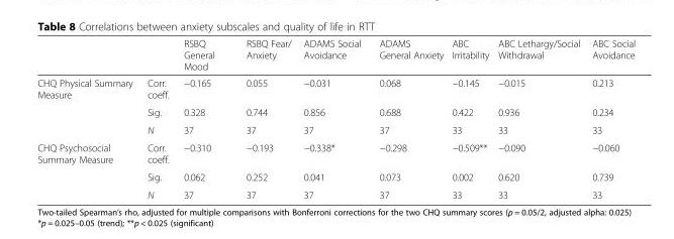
<table><thead><tr><td></td><td></td><td>RSBQ General Mood</td><td>RSBQ Fear/ Anxiety</td><td>ADAMS Social Avoidance</td><td>ADAMS General Anxiety</td><td>ABC Irritability</td><td>ABC Lethargy/Social Withdrawal</td><td>ABC Social Avoidance</td></tr></thead><tbody><tr><td rowspan="3">CHQ Physical Summary Measure</td><td>Corr. coeff.</td><td>−0.165</td><td>0.055</td><td>−0.031</td><td>0.068</td><td>−0.145</td><td>−0.015</td><td>0.213</td></tr><tr><td>Sig.</td><td>0.328</td><td>0.744</td><td>0.856</td><td>0.688</td><td>0.422</td><td>0.936</td><td>0.234</td></tr><tr><td>N</td><td>37</td><td>37</td><td>37</td><td>37</td><td>33</td><td>33</td><td>33</td></tr><tr><td rowspan="3">CHQ Psychosocial Summary Measure</td><td>Corr. coeff.</td><td>−0.310</td><td>−0.193</td><td>−0.338*</td><td>−0.298</td><td>−0.509**</td><td>−0.090</td><td>−0.060</td></tr><tr><td>Sig.</td><td>0.062</td><td>0.252</td><td>0.041</td><td>0.073</td><td>0.002</td><td>0.620</td><td>0.739</td></tr><tr><td>N</td><td>37</td><td>37</td><td>37</td><td>37</td><td>33</td><td>33</td><td>33</td></tr></tbody></table>